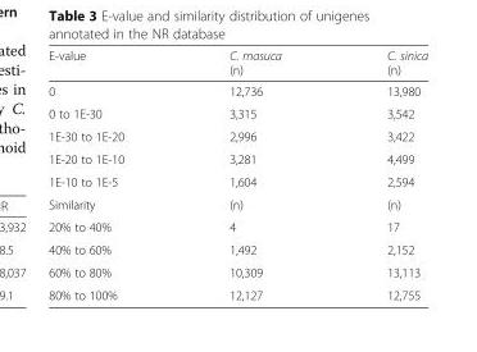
<table><thead><tr><td>E-value</td><td>C. masuca (n)</td><td>C. sinica (n)</td></tr></thead><tbody><tr><td>0</td><td>12,736</td><td>13,980</td></tr><tr><td>0 to 1E-30</td><td>3,315</td><td>3,542</td></tr><tr><td>1E-30 to 1E-20</td><td>2,996</td><td>3,422</td></tr><tr><td>1E-20 to 1E-10</td><td>3,281</td><td>4,499</td></tr><tr><td>1E-10 to 1E-5</td><td>1,604</td><td>2,594</td></tr><tr><td>Similarity</td><td>(n)</td><td>(n)</td></tr><tr><td>20% to 40%</td><td>4</td><td>17</td></tr><tr><td>40% to 60%</td><td>1,492</td><td>2,152</td></tr><tr><td>60% to 80%</td><td>10,309</td><td>13,113</td></tr><tr><td>80% to 100%</td><td>12,127</td><td>12,755</td></tr></tbody></table>